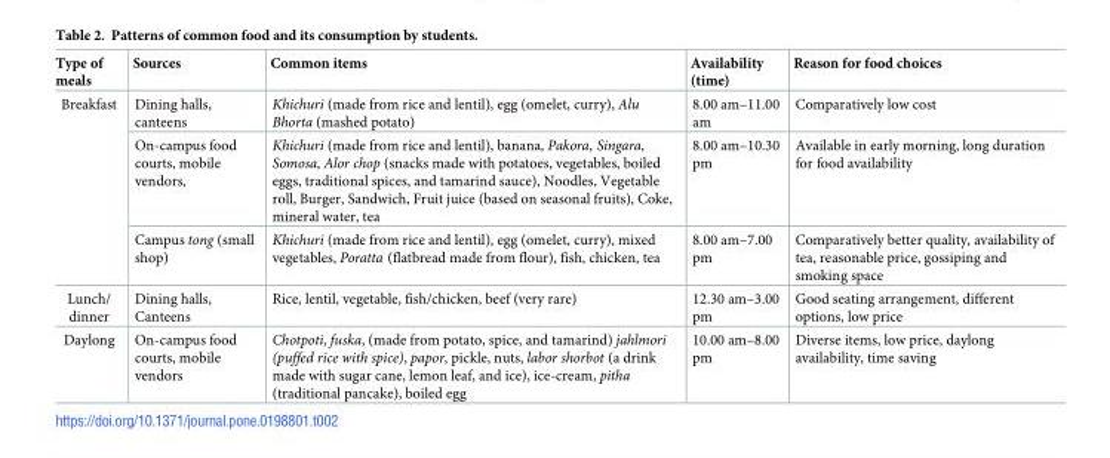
<table><thead><tr><td>Type of meals</td><td>Sources</td><td>Common items</td><td>Availability (time)</td><td>Reason for food choices</td></tr></thead><tbody><tr><td rowspan="3">Breakfast</td><td>Dining halls, canteens</td><td>Khichuri (made from rice and lentil), egg (omelet, curry), Alu Bhorta (mashed potato)</td><td>8.00 am–11.00 am</td><td>Comparatively low cost</td></tr><tr><td>On-campus food courts, mobile vendors,</td><td>Khichuri (made from rice and lentil), banana, Pakora, Singara, Somosa, Alor chop (snacks made with potatoes, vegetables, boiled eggs, traditional spices, and tamarind sauce), Noodles, Vegetable roll, Burger, Sandwich, Fruit juice (based on seasonal fruits), Coke, mineral water, tea</td><td>8.00 am–10.30 pm</td><td>Available in early morning, long duration for food availability</td></tr><tr><td>Campus tong (small shop)</td><td>Khichuri (made from rice and lentil), egg (omelet, curry), mixed vegetables, Poratta (flatbread made from flour), fish, chicken, tea</td><td>8.00 am–7.00 pm</td><td>Comparatively better quality, availability of tea, reasonable price, gossiping and smoking space</td></tr><tr><td>Lunch/ dinner</td><td>Dining halls, Canteens</td><td>Rice, lentil, vegetable, fish/chicken, beef (very rare)</td><td>12.30 am–3.00 pm</td><td>Good seating arrangement, different options, low price</td></tr><tr><td>Daylong</td><td>On-campus food courts, mobile vendors</td><td>Chotpoti, fuska, (made from potato, spice, and tamarind) jahlmori (puffed rice with spice), papor, pickle, nuts, labor shorbot (a drink made with sugar cane, lemon leaf, and ice), ice-cream, pitha (traditional pancake), boiled egg</td><td>10.00 am–8.00 pm</td><td>Diverse items, low price, daylong availability, time saving</td></tr></tbody></table>